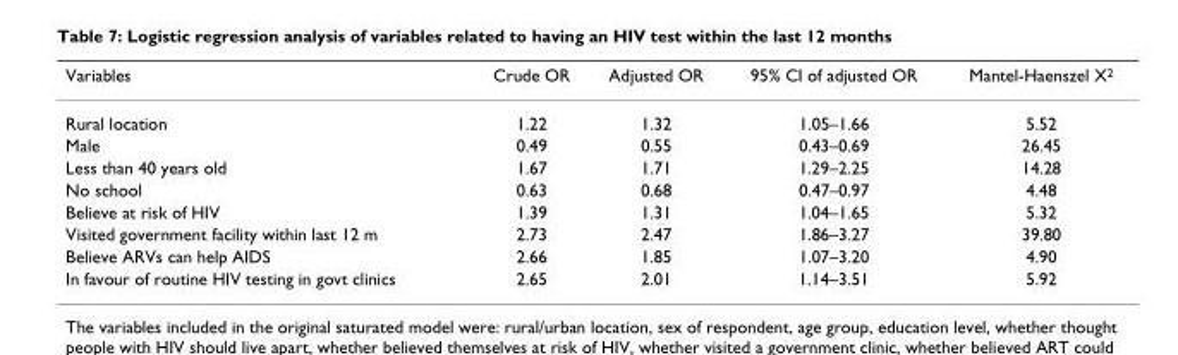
<table><thead><tr><td>Variables</td><td>Crude OR</td><td>Adjusted OR</td><td>95% CI of adjusted OR</td><td>Mantel-Haenszel X<sup>2</sup></td></tr></thead><tbody><tr><td>Rural location</td><td>1.22</td><td>1.32</td><td>1.05–1.66</td><td>5.52</td></tr><tr><td>Male</td><td>0.49</td><td>0.55</td><td>0.43–0.69</td><td>26.45</td></tr><tr><td>Less than 40 years old</td><td>1.67</td><td>1.71</td><td>1.29–2.25</td><td>14.28</td></tr><tr><td>No school</td><td>0.63</td><td>0.68</td><td>0.47–0.97</td><td>4.48</td></tr><tr><td>Believe at risk of HIV</td><td>1.39</td><td>1.31</td><td>1.04–1.65</td><td>5.32</td></tr><tr><td>Visited government facility within last 12 m</td><td>2.73</td><td>2.47</td><td>1.86–3.27</td><td>39.80</td></tr><tr><td>Believe ARVs can help AIDS</td><td>2.66</td><td>1.85</td><td>1.07–3.20</td><td>4.90</td></tr><tr><td>In favour of routine HIV testing in govt clinics</td><td>2.65</td><td>2.01</td><td>1.14–3.51</td><td>5.92</td></tr></tbody></table>